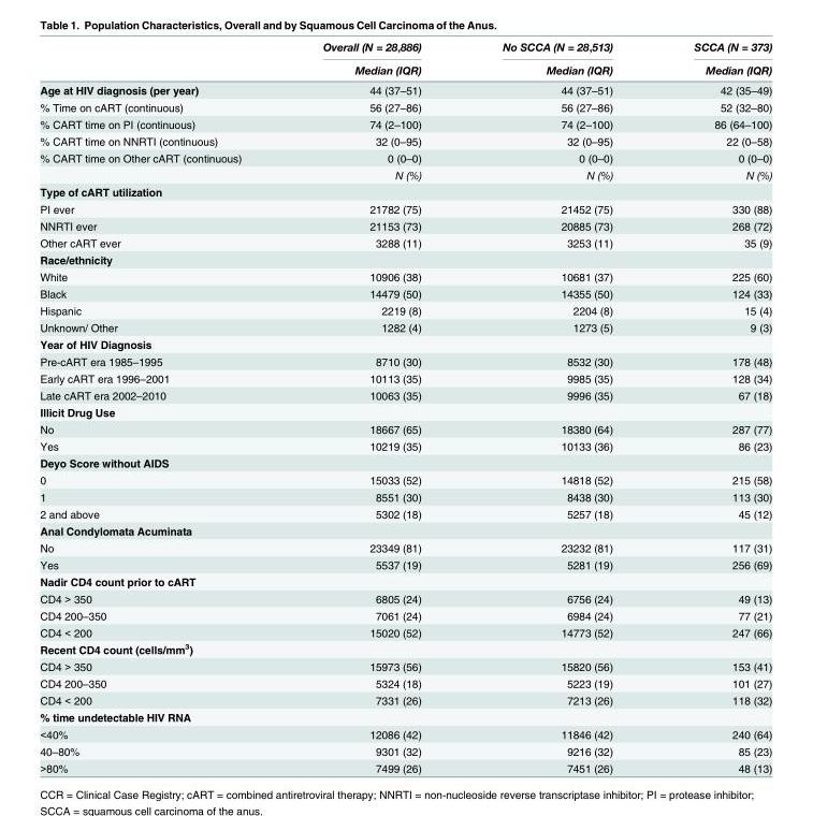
<table><thead><tr><td rowspan="2"></td><td rowspan="2">Overall (N = 28,886) Median (IQR)</td><td rowspan="2">No SCCA (N = 28,513) Median (IQR)</td><td rowspan="2">SCCA (N = 373) Median (IQR)</td></tr><tr></tr></thead><tbody><tr><td>Age at HIV diagnosis (per year)</td><td>44 (37–51)</td><td>44 (37–51)</td><td>42 (35–49)</td></tr><tr><td>% Time on cART (continuous)</td><td>56 (27–86)</td><td>56 (27–86)</td><td>52 (32–80)</td></tr><tr><td>% CART time on PI (continuous)</td><td>74 (2–100)</td><td>74 (2–100)</td><td>86 (64–100)</td></tr><tr><td>% CART time on NNRTI (continuous)</td><td>32 (0–95)</td><td>32 (0–95)</td><td>22 (0–58)</td></tr><tr><td rowspan="2">% CART time on Other cART (continuous)</td><td>0 (0–0)</td><td>0 (0–0)</td><td>0 (0–0)</td></tr><tr><td>N (%)</td><td>N (%)</td><td>N (%)</td></tr><tr><td colspan="4">Type of cART utilization</td></tr><tr><td>PI ever</td><td>21782 (75)</td><td>21452 (75)</td><td>330 (88)</td></tr><tr><td>NNRTI ever</td><td>21153 (73)</td><td>20885 (73)</td><td>268 (72)</td></tr><tr><td>Other cART ever</td><td>3288 (11)</td><td>3253 (11)</td><td>35 (9)</td></tr><tr><td colspan="4">Race/ethnicity</td></tr><tr><td>White</td><td>10906 (38)</td><td>10681 (37)</td><td>225 (60)</td></tr><tr><td>Black</td><td>14479 (50)</td><td>14355 (50)</td><td>124 (33)</td></tr><tr><td>Hispanic</td><td>2219 (8)</td><td>2204 (8)</td><td>15 (4)</td></tr><tr><td>Unknown/ Other</td><td>1282 (4)</td><td>1273 (5)</td><td>9 (3)</td></tr><tr><td colspan="4">Year of HIV Diagnosis</td></tr><tr><td>Pre-cART era 1985–1995</td><td>8710 (30)</td><td>8532 (30)</td><td>178 (48)</td></tr><tr><td>Early cART era 1996–2001</td><td>10113 (35)</td><td>9985 (35)</td><td>128 (34)</td></tr><tr><td>Late cART era 2002–2010</td><td>10063 (35)</td><td>9996 (35)</td><td>67 (18)</td></tr><tr><td colspan="4">Illicit Drug Use</td></tr><tr><td>No</td><td>18667 (65)</td><td>18380 (64)</td><td>287 (77)</td></tr><tr><td>Yes</td><td>10219 (35)</td><td>10133 (36)</td><td>86 (23)</td></tr><tr><td colspan="4">Deyo Score without AIDS</td></tr><tr><td>0</td><td>15033 (52)</td><td>14818 (52)</td><td>215 (58)</td></tr><tr><td>1</td><td>8551 (30)</td><td>8438 (30)</td><td>113 (30)</td></tr><tr><td>2 and above</td><td>5302 (18)</td><td>5257 (18)</td><td>45 (12)</td></tr><tr><td colspan="4">Anal Condylomata Acuminata</td></tr><tr><td>No</td><td>23349 (81)</td><td>23232 (81)</td><td>117 (31)</td></tr><tr><td>Yes</td><td>5537 (19)</td><td>5281 (19)</td><td>256 (69)</td></tr><tr><td colspan="4">Nadir CD4 count prior to cART</td></tr><tr><td>CD4 &gt; 350</td><td>6805 (24)</td><td>6756 (24)</td><td>49 (13)</td></tr><tr><td>CD4 200–350</td><td>7061 (24)</td><td>6984 (24)</td><td>77 (21)</td></tr><tr><td>CD4 &lt; 200</td><td>15020 (52)</td><td>14773 (52)</td><td>247 (66)</td></tr><tr><td colspan="4">Recent CD4 count (cells/mm<sup>3</sup>)</td></tr><tr><td>CD4 &gt; 350</td><td>15973 (56)</td><td>15820 (56)</td><td>153 (41)</td></tr><tr><td>CD4 200–350</td><td>5324 (18)</td><td>5223 (19)</td><td>101 (27)</td></tr><tr><td>CD4 &lt; 200</td><td>7331 (26)</td><td>7213 (26)</td><td>118 (32)</td></tr><tr><td colspan="4">% time undetectable HIV RNA</td></tr><tr><td>&lt;40%</td><td>12086 (42)</td><td>11846 (42)</td><td>240 (64)</td></tr><tr><td>40–80%</td><td>9301 (32)</td><td>9216 (32)</td><td>85 (23)</td></tr><tr><td>&gt;80%</td><td>7499 (26)</td><td>7451 (26)</td><td>48 (13)</td></tr></tbody></table>